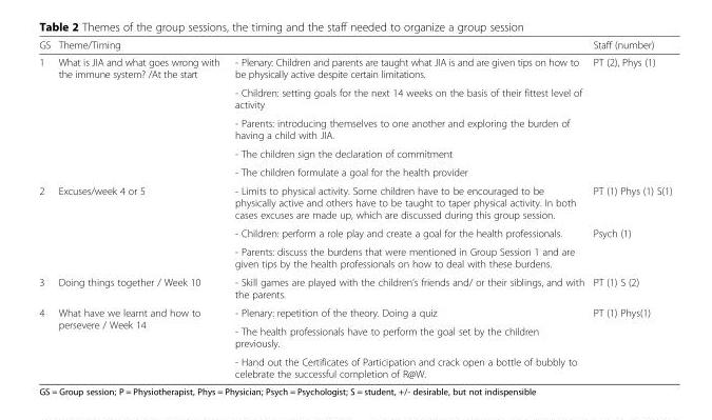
<table><thead><tr><td>GS</td><td>Theme/Timing</td><td></td><td>Staff (number)</td></tr></thead><tbody><tr><td rowspan="5">1</td><td rowspan="5">What is JIA and what goes wrong with the immune system? /At the start</td><td>- Plenary: Children and parents are taught what JIA is and are given tips on how to be physically active despite certain limitations.</td><td rowspan="5">PT (2), Phys (1)</td></tr><tr><td>- Children: setting goals for the next 14 weeks on the basis of their fittest level of activity</td></tr><tr><td>- Parents: introducing themselves to one another and exploring the burden of having a child with JIA.</td></tr><tr><td>- The children sign the declaration of commitment</td></tr><tr><td>- The children formulate a goal for the health provider</td></tr><tr><td rowspan="3">2</td><td rowspan="3">Excuses/week 4 or 5</td><td>- Limits to physical activity. Some children have to be encouraged to be physically active and others have to be taught to taper physical activity. In both cases excuses are made up, which are discussed during this group session.</td><td>PT (1) Phys (1) S(1)</td></tr><tr><td>- Children: perform a role play and create a goal for the health professionals.</td><td rowspan="2">Psych (1)</td></tr><tr><td>- Parents: discuss the burdens that were mentioned in Group Session 1 and are given tips by the health professionals on how to deal with these burdens.</td></tr><tr><td>3</td><td>Doing things together / Week 10</td><td>- Skill games are played with the children’s friends and/ or their siblings, and with the parents.</td><td>PT (1) S (2)</td></tr><tr><td rowspan="3">4</td><td rowspan="3">What have we learnt and how to persevere / Week 14</td><td>- Plenary: repetition of the theory. Doing a quiz</td><td rowspan="3">PT (1) Phys(1)</td></tr><tr><td>- The health professionals have to perform the goal set by the children previously.</td></tr><tr><td>- Hand out the Certificates of Participation and crack open a bottle of bubbly to celebrate the successful completion of R@W.</td></tr></tbody></table>